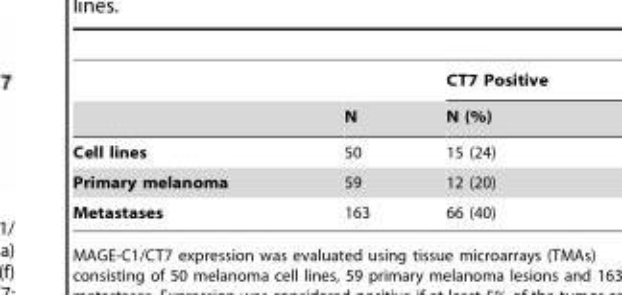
<table><thead><tr><td rowspan="2"></td><td rowspan="2">N</td><td rowspan="2">CT7 Positive N (%)</td></tr><tr></tr></thead><tbody><tr><td>Cell lines</td><td>50</td><td>15 (24)</td></tr><tr><td>Primary melanoma</td><td>59</td><td>12 (20)</td></tr><tr><td>Metastases</td><td>163</td><td>66 (40)</td></tr></tbody></table>